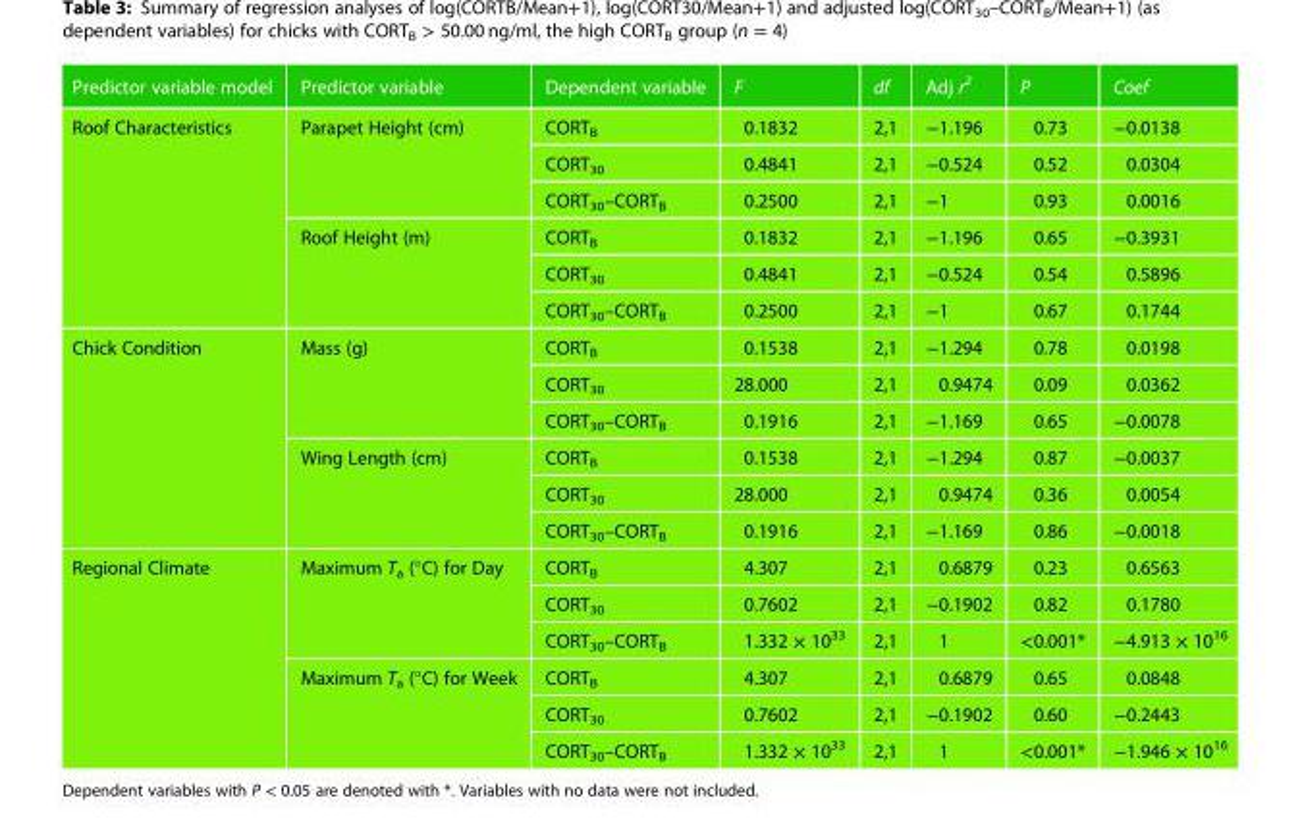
<table><thead><tr><td>Predictor variable model</td><td>Predictor variable</td><td>Dependent variable</td><td>F</td><td>df</td><td>Adj r<sup>2</sup></td><td>P</td><td>Coef</td></tr></thead><tbody><tr><td rowspan="6">Roof Characteristics</td><td rowspan="3">Parapet Height (cm)</td><td>CORT<sub>B</sub></td><td>0.1832</td><td>2,1</td><td>−1.196</td><td>0.73</td><td>−0.0138</td></tr><tr><td>CORT<sub>30</sub></td><td>0.4841</td><td>2,1</td><td>−0.524</td><td>0.52</td><td>0.0304</td></tr><tr><td>CORT<sub>30</sub>–CORT<sub>B</sub></td><td>0.2500</td><td>2,1</td><td>−1</td><td>0.93</td><td>0.0016</td></tr><tr><td rowspan="3">Roof Height (m)</td><td>CORT<sub>B</sub></td><td>0.1832</td><td>2,1</td><td>−1.196</td><td>0.65</td><td>−0.3931</td></tr><tr><td>CORT<sub>30</sub></td><td>0.4841</td><td>2,1</td><td>−0.524</td><td>0.54</td><td>0.5896</td></tr><tr><td>CORT<sub>30</sub>–CORT<sub>B</sub></td><td>0.2500</td><td>2,1</td><td>−1</td><td>0.67</td><td>0.1744</td></tr><tr><td rowspan="6">Chick Condition</td><td rowspan="3">Mass (g)</td><td>CORT<sub>B</sub></td><td>0.1538</td><td>2,1</td><td>−1.294</td><td>0.78</td><td>0.0198</td></tr><tr><td>CORT<sub>30</sub></td><td>28.000</td><td>2,1</td><td>0.9474</td><td>0.09</td><td>0.0362</td></tr><tr><td>CORT<sub>30</sub>–CORT<sub>B</sub></td><td>0.1916</td><td>2,1</td><td>−1.169</td><td>0.65</td><td>−0.0078</td></tr><tr><td rowspan="3">Wing Length (cm)</td><td>CORT<sub>B</sub></td><td>0.1538</td><td>2,1</td><td>−1.294</td><td>0.87</td><td>−0.0037</td></tr><tr><td>CORT<sub>30</sub></td><td>28.000</td><td>2,1</td><td>0.9474</td><td>0.36</td><td>0.0054</td></tr><tr><td>CORT<sub>30</sub>–CORT<sub>B</sub></td><td>0.1916</td><td>2,1</td><td>−1.169</td><td>0.86</td><td>−0.0018</td></tr><tr><td rowspan="6">Regional Climate</td><td rowspan="3">Maximum T<sub>a</sub> (°C) for Day</td><td>CORT<sub>B</sub></td><td>4.307</td><td>2,1</td><td>0.6879</td><td>0.23</td><td>0.6563</td></tr><tr><td>CORT<sub>30</sub></td><td>0.7602</td><td>2,1</td><td>−0.1902</td><td>0.82</td><td>0.1780</td></tr><tr><td>CORT<sub>30</sub>–CORT<sub>B</sub></td><td>1.332 × 10<sup>33</sup></td><td>2,1</td><td>1</td><td>&lt;0.001*</td><td>−4.913 × 10<sup>16</sup></td></tr><tr><td rowspan="3">Maximum T<sub>a</sub> (°C) for Week</td><td>CORT<sub>B</sub></td><td>4.307</td><td>2,1</td><td>0.6879</td><td>0.65</td><td>0.0848</td></tr><tr><td>CORT<sub>30</sub></td><td>0.7602</td><td>2,1</td><td>−0.1902</td><td>0.60</td><td>−0.2443</td></tr><tr><td>CORT<sub>30</sub>–CORT<sub>B</sub></td><td>1.332 × 10<sup>33</sup></td><td>2,1</td><td>1</td><td>&lt;0.001*</td><td>−1.946 × 10<sup>16</sup></td></tr></tbody></table>